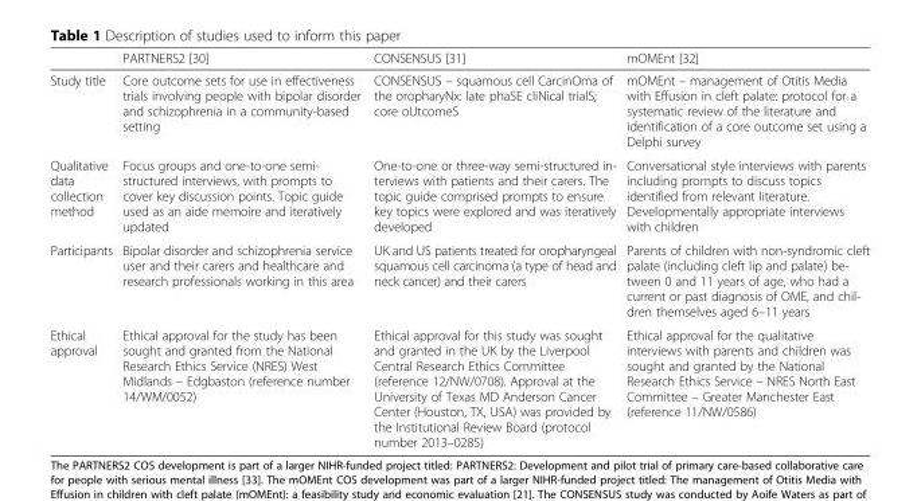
<table><thead><tr><td></td><td>PARTNERS2 [30]</td><td>CONSENSUS [31]</td><td>mOMEnt [32]</td></tr></thead><tbody><tr><td>Study title</td><td>Core outcome sets for use in effectiveness trials involving people with bipolar disorder and schizophrenia in a community-based setting</td><td>CONSENSUS – squamous cell CarcinOma of the oropharyNx: late phaSE cliNical trialS; core oUtcomeS</td><td>mOMEnt – management of Otitis Media with Effusion in cleft palate: protocol for a systematic review of the literature and identification of a core outcome set using a Delphi survey</td></tr><tr><td>Qualitative data collection method</td><td>Focus groups and one-to-one semi- structured interviews, with prompts to cover key discussion points. Topic guide used as an aide memoire and iteratively updated</td><td>One-to-one or three-way semi-structured in- terviews with patients and their carers. The topic guide comprised prompts to ensure key topics were explored and was iteratively developed</td><td>Conversational style interviews with parents including prompts to discuss topics identified from relevant literature. Developmentally appropriate interviews with children</td></tr><tr><td>Participants</td><td>Bipolar disorder and schizophrenia service user and their carers and healthcare and research professionals working in this area</td><td>UK and US patients treated for oropharyngeal squamous cell carcinoma (a type of head and neck cancer) and their carers</td><td>Parents of children with non-syndromic cleft palate (including cleft lip and palate) be- tween 0 and 11 years of age, who had a current or past diagnosis of OME, and chil- dren themselves aged 6–11 years</td></tr><tr><td>Ethical approval</td><td>Ethical approval for the study has been sought and granted from the National Research Ethics Service (NRES) West Midlands – Edgbaston (reference number 14/WM/0052)</td><td>Ethical approval for this study was sought and granted in the UK by the Liverpool Central Research Ethics Committee (reference 12/NW/0708). Approval at the University of Texas MD Anderson Cancer Center (Houston, TX, USA) was provided by the Institutional Review Board (protocol number 2013–0285)</td><td>Ethical approval for the qualitative interviews with parents and children was sought and granted by the National Research Ethics Service – NRES North East Committee – Greater Manchester East (reference 11/NW/0586)</td></tr></tbody></table>